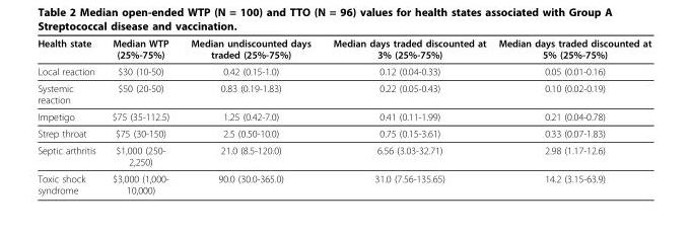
<table><thead><tr><td>Health state</td><td>Median WTP (25%-75%)</td><td>Median undiscounted days traded (25%-75%)</td><td>Median days traded discounted at 3% (25%-75%)</td><td>Median days traded discounted at 5% (25%-75%)</td></tr></thead><tbody><tr><td>Local reaction</td><td>$30 (10-50)</td><td>0.42 (0.15-1.0)</td><td>0.12 (0.04-0.33)</td><td>0.05 (0.01-0.16)</td></tr><tr><td>Systemic reaction</td><td>$50 (20-50)</td><td>0.83 (0.19-1.83)</td><td>0.22 (0.05-0.43)</td><td>0.10 (0.02-0.19)</td></tr><tr><td>Impetigo</td><td>$75 (35-112.5)</td><td>1.25 (0.42-7.0)</td><td>0.41 (0.11-1.99)</td><td>0.21 (0.04-0.78)</td></tr><tr><td>Strep throat</td><td>$75 (30-150)</td><td>2.5 (0.50-10.0)</td><td>0.75 (0.15-3.61)</td><td>0.33 (0.07-1.83)</td></tr><tr><td>Septic arthritis</td><td>$1,000 (250- 2,250)</td><td>21.0 (8.5-120.0)</td><td>6.56 (3.03-32.71)</td><td>2.98 (1.17-12.6)</td></tr><tr><td>Toxic shock syndrome</td><td>$3,000 (1,000- 10,000)</td><td>90.0 (30.0-365.0)</td><td>31.0 (7.56-135.65)</td><td>14.2 (3.15-63.9)</td></tr></tbody></table>